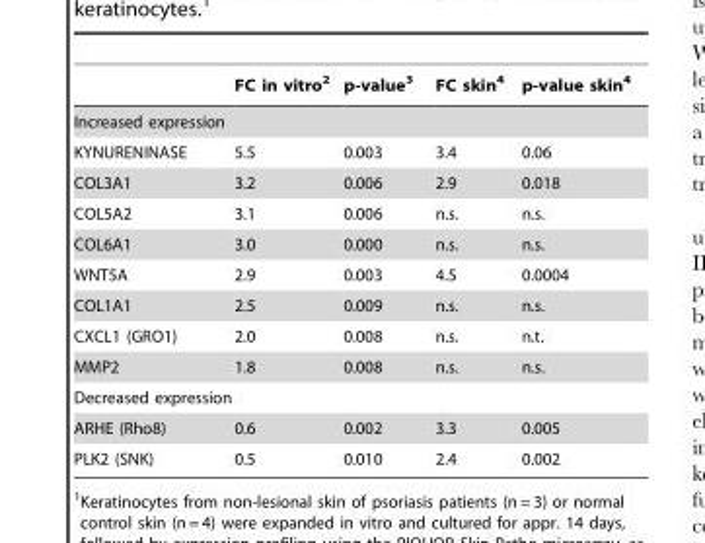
<table><thead><tr><td></td><td>FC in vitro<sup>2</sup></td><td>p-value<sup>3</sup></td><td>FC skin<sup>4</sup></td><td>p-value skin<sup>4</sup></td></tr></thead><tbody><tr><td colspan="5">Increased expression</td></tr><tr><td>KYNURENINASE</td><td>5.5</td><td>0.003</td><td>3.4</td><td>0.06</td></tr><tr><td>COL3A1</td><td>3.2</td><td>0.006</td><td>2.9</td><td>0.018</td></tr><tr><td>COL5A2</td><td>3.1</td><td>0.006</td><td>n.s.</td><td>n.s.</td></tr><tr><td>COL6A1</td><td>3.0</td><td>0.000</td><td>n.s.</td><td>n.s.</td></tr><tr><td>WNT5A</td><td>2.9</td><td>0.003</td><td>4.5</td><td>0.0004</td></tr><tr><td>COL1A1</td><td>2.5</td><td>0.009</td><td>n.s.</td><td>n.s.</td></tr><tr><td>CXCL1 (GRO1)</td><td>2.0</td><td>0.008</td><td>n.s.</td><td>n.t.</td></tr><tr><td>MMP2</td><td>1.8</td><td>0.008</td><td>n.s.</td><td>n.s.</td></tr><tr><td colspan="5">Decreased expression</td></tr><tr><td>ARHE (Rho8)</td><td>0.6</td><td>0.002</td><td>3.3</td><td>0.005</td></tr><tr><td>PLK2 (SNK)</td><td>0.5</td><td>0.010</td><td>2.4</td><td>0.002</td></tr></tbody></table>